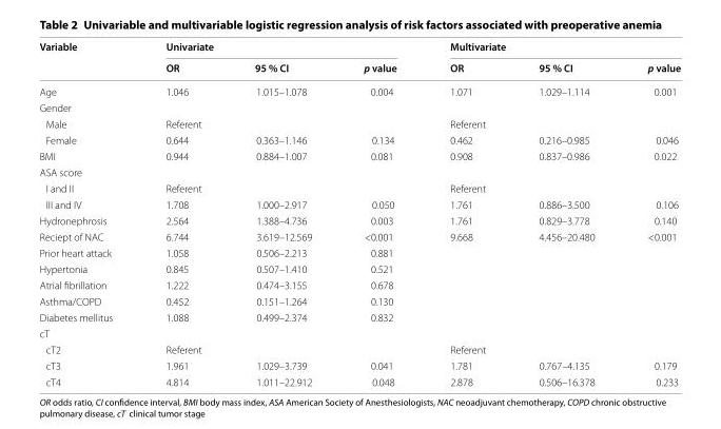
<table><thead><tr><td rowspan="2">Variable</td><td colspan="3">Univariate</td><td colspan="3">Multivariate</td></tr><tr><td>OR</td><td>95 % CI</td><td>p value</td><td>OR</td><td>95 % CI</td><td>p value</td></tr></thead><tbody><tr><td>Age</td><td>1.046</td><td>1.015–1.078</td><td>0.004</td><td>1.071</td><td>1.029–1.114</td><td>0.001</td></tr><tr><td colspan="7">Gender</td></tr><tr><td>Male</td><td>Referent</td><td></td><td></td><td>Referent</td><td></td><td></td></tr><tr><td>Female</td><td>0.644</td><td>0.363–1.146</td><td>0.134</td><td>0.462</td><td>0.216–0.985</td><td>0.046</td></tr><tr><td>BMI</td><td>0.944</td><td>0.884–1.007</td><td>0.081</td><td>0.908</td><td>0.837–0.986</td><td>0.022</td></tr><tr><td colspan="7">ASA score</td></tr><tr><td>I and II</td><td>Referent</td><td></td><td></td><td>Referent</td><td></td><td></td></tr><tr><td>III and IV</td><td>1.708</td><td>1.000–2.917</td><td>0.050</td><td>1.761</td><td>0.886–3.500</td><td>0.106</td></tr><tr><td>Hydronephrosis</td><td>2.564</td><td>1.388–4.736</td><td>0.003</td><td>1.761</td><td>0.829–3.778</td><td>0.140</td></tr><tr><td>Reciept of NAC</td><td>6.744</td><td>3.619–12.569</td><td>&lt;0.001</td><td>9.668</td><td>4.456–20.480</td><td>&lt;0.001</td></tr><tr><td>Prior heart attack</td><td>1.058</td><td>0.506–2.213</td><td>0.881</td><td></td><td></td><td></td></tr><tr><td>Hypertonia</td><td>0.845</td><td>0.507–1.410</td><td>0.521</td><td></td><td></td><td></td></tr><tr><td>Atrial fibrillation</td><td>1.222</td><td>0.474–3.155</td><td>0.678</td><td></td><td></td><td></td></tr><tr><td>Asthma/COPD</td><td>0.452</td><td>0.151–1.264</td><td>0.130</td><td></td><td></td><td></td></tr><tr><td>Diabetes mellitus</td><td>1.088</td><td>0.499–2.374</td><td>0.832</td><td></td><td></td><td></td></tr><tr><td colspan="7">cT</td></tr><tr><td>cT2</td><td>Referent</td><td></td><td></td><td>Referent</td><td></td><td></td></tr><tr><td>cT3</td><td>1.961</td><td>1.029–3.739</td><td>0.041</td><td>1.781</td><td>0.767–4.135</td><td>0.179</td></tr><tr><td>cT4</td><td>4.814</td><td>1.011–22.912</td><td>0.048</td><td>2.878</td><td>0.506–16.378</td><td>0.233</td></tr></tbody></table>